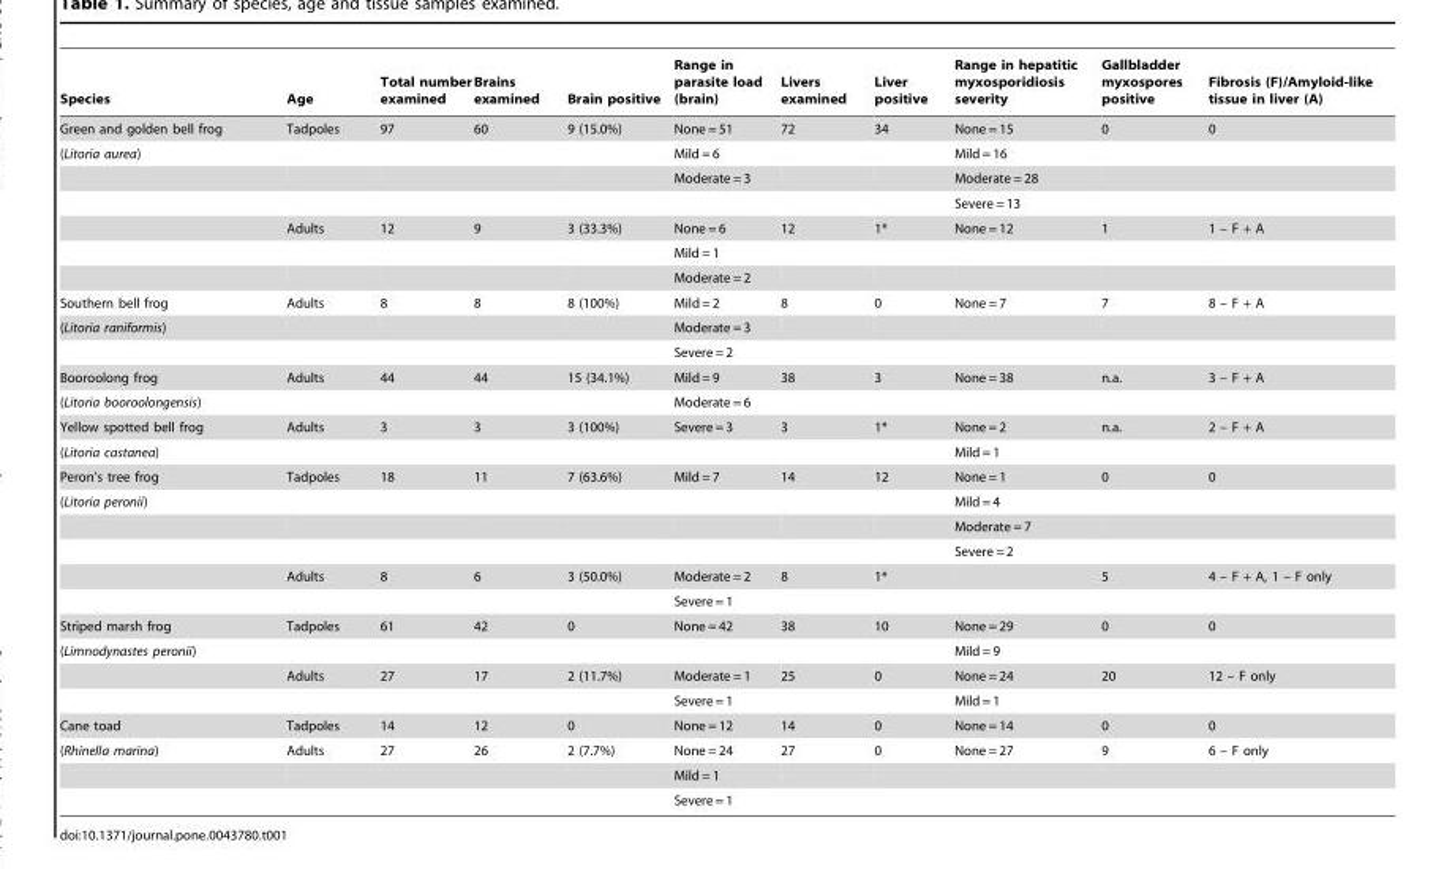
<table><thead><tr><td>Species</td><td>Age</td><td>Total number examined</td><td>Brains examined</td><td>Brain positive</td><td>Range in parasite load (brain)</td><td>Livers examined</td><td>Liver positive</td><td>Range in hepatitic myxosporidiosis severity</td><td>Gallbladder myxospores positive</td><td>Fibrosis (F)/Amyloid-like tissue in liver (A)</td></tr></thead><tbody><tr><td>Green and golden bell frog</td><td>Tadpoles</td><td>97</td><td>60</td><td>9 (15.0%)</td><td>None = 51</td><td>72</td><td>34</td><td>None = 15</td><td>0</td><td>0</td></tr><tr><td rowspan="6">(Litoria aurea)</td><td></td><td></td><td></td><td></td><td>Mild = 6</td><td></td><td></td><td>Mild = 16</td><td></td><td></td></tr><tr><td></td><td></td><td></td><td></td><td>Moderate = 3</td><td></td><td></td><td>Moderate = 28</td><td></td><td></td></tr><tr><td></td><td></td><td></td><td></td><td></td><td></td><td></td><td>Severe = 13</td><td></td><td></td></tr><tr><td>Adults</td><td>12</td><td>9</td><td>3 (33.3%)</td><td>None = 6</td><td>12</td><td>1*</td><td>None = 12</td><td>1</td><td>1 – F + A</td></tr><tr><td></td><td></td><td></td><td></td><td>Mild = 1</td><td></td><td></td><td></td><td></td><td></td></tr><tr><td></td><td></td><td></td><td></td><td>Moderate = 2</td><td></td><td></td><td></td><td></td><td></td></tr><tr><td>Southern bell frog</td><td>Adults</td><td>8</td><td>8</td><td>8 (100%)</td><td>Mild = 2</td><td>8</td><td>0</td><td>None = 7</td><td>7</td><td>8 – F + A</td></tr><tr><td rowspan="2">(Litoria raniformis)</td><td></td><td></td><td></td><td></td><td>Moderate = 3</td><td></td><td></td><td></td><td></td><td></td></tr><tr><td></td><td></td><td></td><td></td><td>Severe = 2</td><td></td><td></td><td></td><td></td><td></td></tr><tr><td>Booroolong frog</td><td>Adults</td><td>44</td><td>44</td><td>15 (34.1%)</td><td>Mild = 9</td><td>38</td><td>3</td><td>None = 38</td><td>n.a.</td><td>3 – F + A</td></tr><tr><td>(Litoria booroolongensis)</td><td></td><td></td><td></td><td></td><td>Moderate = 6</td><td></td><td></td><td></td><td></td><td></td></tr><tr><td>Yellow spotted bell frog</td><td>Adults</td><td>3</td><td>3</td><td>3 (100%)</td><td>Severe = 3</td><td>3</td><td>1*</td><td>None = 2</td><td>n.a.</td><td>2 – F + A</td></tr><tr><td>(Litoria castanea)</td><td></td><td></td><td></td><td></td><td></td><td></td><td></td><td>Mild = 1</td><td></td><td></td></tr><tr><td>Peron’s tree frog</td><td>Tadpoles</td><td>18</td><td>11</td><td>7 (63.6%)</td><td>Mild = 7</td><td>14</td><td>12</td><td>None = 1</td><td>0</td><td>0</td></tr><tr><td rowspan="5">(Litoria peronii)</td><td></td><td></td><td></td><td></td><td></td><td></td><td></td><td>Mild = 4</td><td></td><td></td></tr><tr><td></td><td></td><td></td><td></td><td></td><td></td><td></td><td>Moderate = 7</td><td></td><td></td></tr><tr><td></td><td></td><td></td><td></td><td></td><td></td><td></td><td>Severe = 2</td><td></td><td></td></tr><tr><td>Adults</td><td>8</td><td>6</td><td>3 (50.0%)</td><td>Moderate = 2</td><td>8</td><td>1*</td><td></td><td>5</td><td>4 – F + A, 1 – F only</td></tr><tr><td></td><td></td><td></td><td></td><td>Severe = 1</td><td></td><td></td><td></td><td></td><td></td></tr><tr><td>Striped marsh frog</td><td>Tadpoles</td><td>61</td><td>42</td><td>0</td><td>None = 42</td><td>38</td><td>10</td><td>None = 29</td><td>0</td><td>0</td></tr><tr><td rowspan="3">(Limnodynastes peronii)</td><td></td><td></td><td></td><td></td><td></td><td></td><td></td><td>Mild = 9</td><td></td><td></td></tr><tr><td>Adults</td><td>27</td><td>17</td><td>2 (11.7%)</td><td>Moderate = 1</td><td>25</td><td>0</td><td>None = 24</td><td>20</td><td>12 – F only</td></tr><tr><td></td><td></td><td></td><td></td><td>Severe = 1</td><td></td><td></td><td>Mild = 1</td><td></td><td></td></tr><tr><td>Cane toad</td><td>Tadpoles</td><td>14</td><td>12</td><td>0</td><td>None = 12</td><td>14</td><td>0</td><td>None = 14</td><td>0</td><td>0</td></tr><tr><td rowspan="3">(Rhinella marina)</td><td>Adults</td><td>27</td><td>26</td><td>2 (7.7%)</td><td>None = 24</td><td>27</td><td>0</td><td>None = 27</td><td>9</td><td>6 – F only</td></tr><tr><td></td><td></td><td></td><td></td><td>Mild = 1</td><td></td><td></td><td></td><td></td><td></td></tr><tr><td></td><td></td><td></td><td></td><td>Severe = 1</td><td></td><td></td><td></td><td></td><td></td></tr></tbody></table>